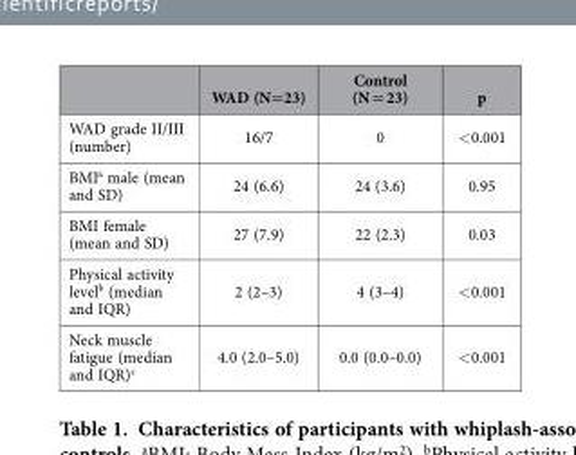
<table><thead><tr><td></td><td>WAD (N=23)</td><td>Control (N = 23)</td><td>p</td></tr></thead><tbody><tr><td>WAD grade II/III (number)</td><td>16/7</td><td>0</td><td>&lt; 0.001</td></tr><tr><td>BMI<sup>a</sup> male (mean and SD)</td><td>24 (6.6)</td><td>24 (3.6)</td><td>0.95</td></tr><tr><td>BMI female (mean and SD)</td><td>27 (7.9)</td><td>22 (2.3)</td><td>0.03</td></tr><tr><td>Physical activity level<sup>b</sup> (median and IQR)</td><td>2 (2–3)</td><td>4 (3–4)</td><td>&lt; 0.001</td></tr><tr><td>Neck muscle fatigue (median and IQR)<sup>c</sup></td><td>4.0 (2.0–5.0)</td><td>0.0 (0.0–0.0)</td><td>&lt; 0.001</td></tr></tbody></table>